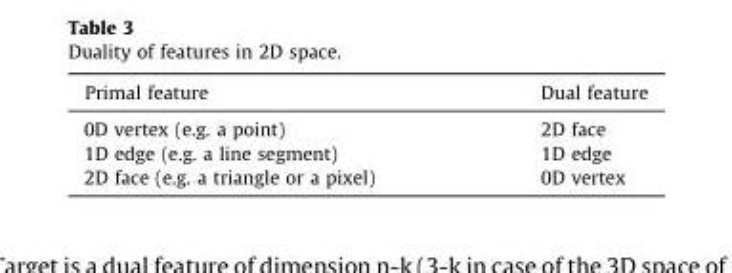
<table><thead><tr><td>Primal feature</td><td>Dual feature</td></tr></thead><tbody><tr><td>0D vertex (e.g. a point)</td><td>2D face</td></tr><tr><td>1D edge (e.g. a line segment)</td><td>1D edge</td></tr><tr><td>2D face (e.g. a triangle or a pixel)</td><td>0D vertex</td></tr></tbody></table>